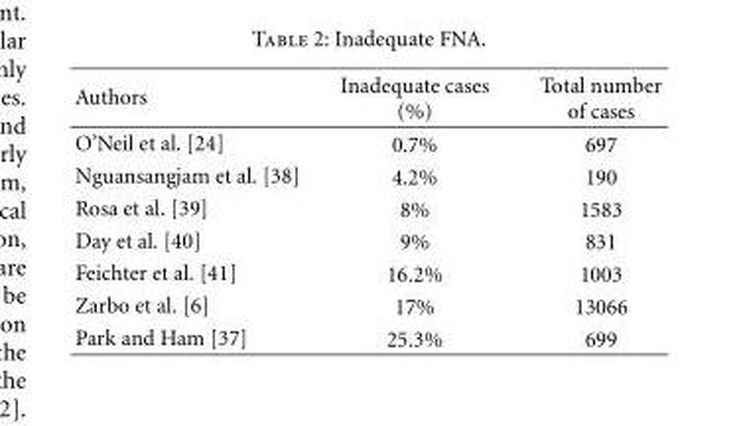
<table><thead><tr><td>Authors</td><td>Inadequate cases (%)</td><td>Total number of cases</td></tr></thead><tbody><tr><td>O’Neil et al. [24]</td><td>0.7%</td><td>697</td></tr><tr><td>Nguansangjam et al. [38]</td><td>4.2%</td><td>190</td></tr><tr><td>Rosa et al. [39]</td><td>8%</td><td>1583</td></tr><tr><td>Day et al. [40]</td><td>9%</td><td>831</td></tr><tr><td>Feichter et al. [41]</td><td>16.2%</td><td>1003</td></tr><tr><td>Zarbo et al. [6]</td><td>17%</td><td>13066</td></tr><tr><td>Park and Ham [37]</td><td>25.3%</td><td>699</td></tr></tbody></table>